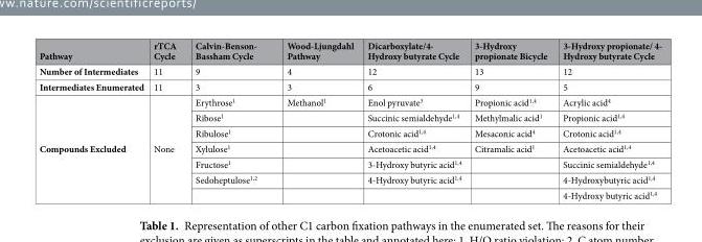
<table><thead><tr><td>Pathway</td><td>rTCA Cycle</td><td>Calvin-Benson- Bassham Cycle</td><td>Wood-Ljungdahl Pathway</td><td>Dicarboxylate/4- Hydroxy butyrate Cycle</td><td>3-Hydroxy propionate Bicycle</td><td>3-Hydroxy propionate/ 4- Hydroxy butyrate Cycle</td></tr></thead><tbody><tr><td>Number of Intermediates</td><td>11</td><td>9</td><td>4</td><td>12</td><td>13</td><td>12</td></tr><tr><td>Intermediates Enumerated</td><td>11</td><td>3</td><td>3</td><td>6</td><td>9</td><td>5</td></tr><tr><td rowspan="7">Compounds Excluded</td><td rowspan="7">None</td><td>Erythrose<sup>1</sup></td><td>Methanol<sup>1</sup></td><td>Enol pyruvate<sup>3</sup></td><td>Propionic acid<sup>1,4</sup></td><td>Acrylic acid<sup>4</sup></td></tr><tr><td>Ribose<sup>1</sup></td><td></td><td>Succinic semialdehyde<sup>1,4</sup></td><td>Methylmalic acid<sup>1</sup></td><td>Propionic acid<sup>1,4</sup></td></tr><tr><td>Ribulose<sup>1</sup></td><td></td><td>Crotonic acid<sup>1,4</sup></td><td>Mesaconic acid<sup>4</sup></td><td>Crotonic acid<sup>1,4</sup></td></tr><tr><td>Xylulose<sup>1</sup></td><td></td><td>Acetoacetic acid<sup>1,4</sup></td><td>Citramalic acid<sup>1</sup></td><td>Acetoacetic acid<sup>1,4</sup></td></tr><tr><td>Fructose<sup>1</sup></td><td></td><td>3-Hydroxy butyric acid<sup>1,4</sup></td><td></td><td>Succinic semialdehyde<sup>1,4</sup></td></tr><tr><td>Sedoheptulose<sup>1,2</sup></td><td></td><td>4-Hydroxy butyric acid<sup>1,4</sup></td><td></td><td>4-Hydroxybutyric acid<sup>1,4</sup></td></tr><tr><td></td><td></td><td></td><td></td><td>4-Hydroxy butyric acid<sup>1,4</sup></td></tr></tbody></table>